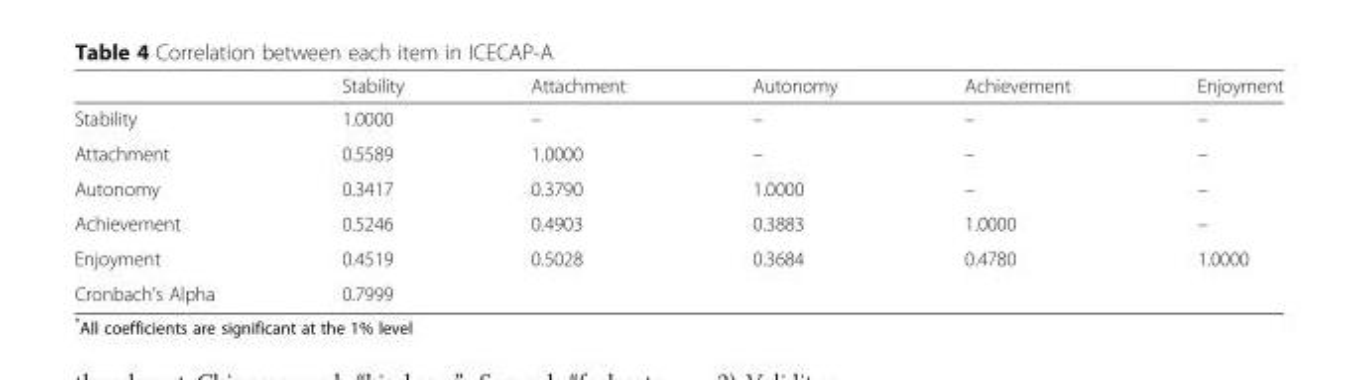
<table><thead><tr><td></td><td>Stability</td><td>Attachment</td><td>Autonomy</td><td>Achievement</td><td>Enjoyment</td></tr></thead><tbody><tr><td>Stability</td><td>1.0000</td><td>–</td><td>–</td><td>–</td><td>–</td></tr><tr><td>Attachment</td><td>0.5589</td><td>1.0000</td><td>–</td><td>–</td><td>–</td></tr><tr><td>Autonomy</td><td>0.3417</td><td>0.3790</td><td>1.0000</td><td>–</td><td>–</td></tr><tr><td>Achievement</td><td>0.5246</td><td>0.4903</td><td>0.3883</td><td>1.0000</td><td>–</td></tr><tr><td>Enjoyment</td><td>0.4519</td><td>0.5028</td><td>0.3684</td><td>0.4780</td><td>1.0000</td></tr><tr><td>Cronbach’s Alpha</td><td colspan="5">0.7999</td></tr></tbody></table>